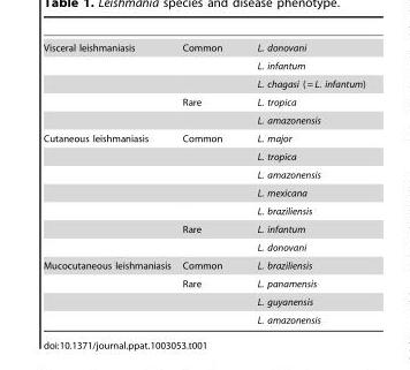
<table><tbody><tr><td rowspan="5">Visceral leishmaniasis</td><td>Common</td><td>L. donovani</td></tr><tr><td></td><td>L. infantum</td></tr><tr><td></td><td>L. chagasi ( = L. infantum)</td></tr><tr><td>Rare</td><td>L. tropica</td></tr><tr><td></td><td>L. amazonensis</td></tr><tr><td rowspan="7">Cutaneous leishmaniasis</td><td>Common</td><td>L. major</td></tr><tr><td></td><td>L. tropica</td></tr><tr><td></td><td>L. amazonensis</td></tr><tr><td></td><td>L. mexicana</td></tr><tr><td></td><td>L. braziliensis</td></tr><tr><td>Rare</td><td>L. infantum</td></tr><tr><td></td><td>L. donovani</td></tr><tr><td rowspan="4">Mucocutaneous leishmaniasis</td><td>Common</td><td>L. braziliensis</td></tr><tr><td>Rare</td><td>L. panamensis</td></tr><tr><td></td><td>L. guyanensis</td></tr><tr><td></td><td>L. amazonensis</td></tr></tbody></table>